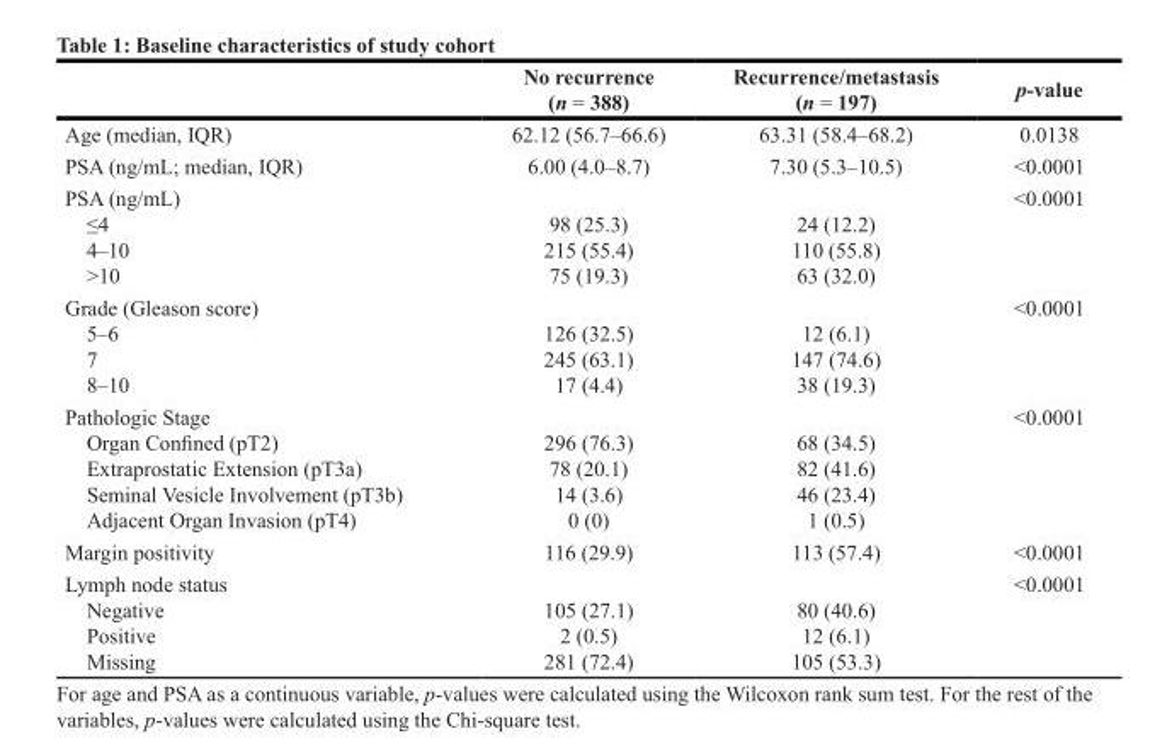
<table><thead><tr><td></td><td>No recurrence (n = 388)</td><td>Recurrence/metastasis (n = 197)</td><td>p-value</td></tr></thead><tbody><tr><td>Age (median, IQR)</td><td>62.12 (56.7–66.6)</td><td>63.31 (58.4–68.2)</td><td>0.0138</td></tr><tr><td>PSA (ng/mL; median, IQR)</td><td>6.00 (4.0–8.7)</td><td>7.30 (5.3–10.5)</td><td>&lt;0.0001</td></tr><tr><td>PSA (ng/mL)</td><td></td><td></td><td>&lt;0.0001</td></tr><tr><td>≤4</td><td>98 (25.3)</td><td>24 (12.2)</td><td></td></tr><tr><td>4–10</td><td>215 (55.4)</td><td>110 (55.8)</td><td></td></tr><tr><td>&gt;10</td><td>75 (19.3)</td><td>63 (32.0)</td><td></td></tr><tr><td>Grade (Gleason score)</td><td></td><td></td><td>&lt;0.0001</td></tr><tr><td>5–6</td><td>126 (32.5)</td><td>12 (6.1)</td><td></td></tr><tr><td>7</td><td>245 (63.1)</td><td>147 (74.6)</td><td></td></tr><tr><td>8–10</td><td>17 (4.4)</td><td>38 (19.3)</td><td></td></tr><tr><td>Pathologic Stage</td><td></td><td></td><td>&lt;0.0001</td></tr><tr><td>Organ Confined (pT2)</td><td>296 (76.3)</td><td>68 (34.5)</td><td></td></tr><tr><td>Extraprostatic Extension (pT3a)</td><td>78 (20.1)</td><td>82 (41.6)</td><td></td></tr><tr><td>Seminal Vesicle Involvement (pT3b)</td><td>14 (3.6)</td><td>46 (23.4)</td><td></td></tr><tr><td>Adjacent Organ Invasion (pT4)</td><td>0 (0)</td><td>1 (0.5)</td><td></td></tr><tr><td>Margin positivity</td><td>116 (29.9)</td><td>113 (57.4)</td><td>&lt;0.0001</td></tr><tr><td>Lymph node status</td><td></td><td></td><td>&lt;0.0001</td></tr><tr><td>Negative</td><td>105 (27.1)</td><td>80 (40.6)</td><td></td></tr><tr><td>Positive</td><td>2 (0.5)</td><td>12 (6.1)</td><td></td></tr><tr><td>Missing</td><td>281 (72.4)</td><td>105 (53.3)</td><td></td></tr></tbody></table>